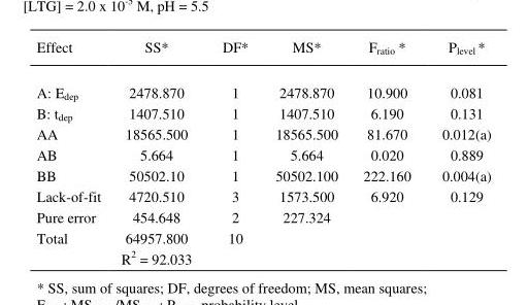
<table><thead><tr><td>Effect</td><td>SS*</td><td>DF*</td><td>MS*</td><td>F<sub>ratio</sub> *</td><td>P<sub>level</sub> *</td></tr></thead><tbody><tr><td>A: E<sub>dep</sub></td><td>2478.870</td><td>1</td><td>2478.870</td><td>10.900</td><td>0.081</td></tr><tr><td>B: t<sub>dep</sub></td><td>1407.510</td><td>1</td><td>1407.510</td><td>6.190</td><td>0.131</td></tr><tr><td>AA</td><td>18565.500</td><td>1</td><td>18565.500</td><td>81.670</td><td>0.012(a)</td></tr><tr><td>AB</td><td>5.664</td><td>1</td><td>5.664</td><td>0.020</td><td>0.889</td></tr><tr><td>BB</td><td>50502.10</td><td>1</td><td>50502.100</td><td>222.160</td><td>0.004(a)</td></tr><tr><td>Lack-of-fit</td><td>4720.510</td><td>3</td><td>1573.500</td><td>6.920</td><td>0.129</td></tr><tr><td>Pure error</td><td>454.648</td><td>2</td><td>227.324</td><td></td><td></td></tr><tr><td>Total</td><td>64957.800 R<sup>2</sup> = 92.033</td><td>10</td><td></td><td></td><td></td></tr></tbody></table>